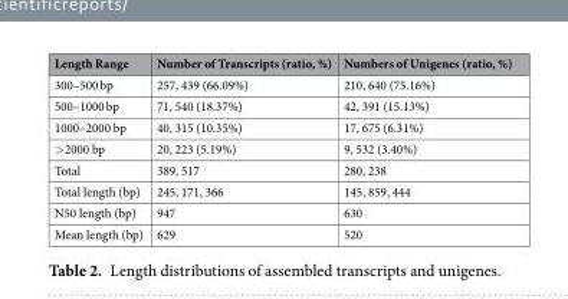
<table><thead><tr><td>Length Range</td><td>Number of Transcripts (ratio, %)</td><td>Numbers of Unigenes (ratio, %)</td></tr></thead><tbody><tr><td>300–500 bp</td><td>257, 439 (66.09%)</td><td>210, 640 (75.16%)</td></tr><tr><td>500–1000 bp</td><td>71, 540 (18.37%)</td><td>42, 391 (15.13%)</td></tr><tr><td>1000–2000 bp</td><td>40, 315 (10.35%)</td><td>17, 675 (6.31%)</td></tr><tr><td>&gt;2000 bp</td><td>20, 223 (5.19%)</td><td>9, 532 (3.40%)</td></tr><tr><td>Total</td><td>389, 517</td><td>280, 238</td></tr><tr><td>Total length (bp)</td><td>245, 171, 366</td><td>145, 859, 444</td></tr><tr><td>N50 length (bp)</td><td>947</td><td>630</td></tr><tr><td>Mean length (bp)</td><td>629</td><td>520</td></tr></tbody></table>